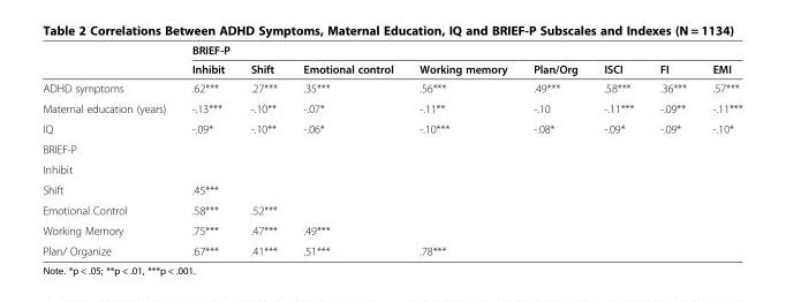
<table><thead><tr><td rowspan="2"></td><td colspan="8">BRIEF-P</td></tr><tr><td>Inhibit</td><td>Shift</td><td>Emotional control</td><td>Working memory</td><td>Plan/Org</td><td>ISCI</td><td>FI</td><td>EMI</td></tr></thead><tbody><tr><td>ADHD symptoms</td><td>.62***</td><td>.27***</td><td>.35***</td><td>.56***</td><td>.49***</td><td>.58***</td><td>.36***</td><td>.57***</td></tr><tr><td>Maternal education (years)</td><td>-.13***</td><td>-.10**</td><td>-.07*</td><td>-.11**</td><td>-.10</td><td>-.11***</td><td>-.09**</td><td>-.11***</td></tr><tr><td>IQ</td><td>-.09*</td><td>-.10**</td><td>-.06*</td><td>-.10***</td><td>-.08*</td><td>-.09*</td><td>-.09*</td><td>-.10*</td></tr><tr><td colspan="9">BRIEF-P</td></tr><tr><td colspan="9">Inhibit</td></tr><tr><td>Shift</td><td>.45***</td><td></td><td></td><td></td><td></td><td></td><td></td><td></td></tr><tr><td>Emotional Control</td><td>.58***</td><td>.52***</td><td></td><td></td><td></td><td></td><td></td><td></td></tr><tr><td>Working Memory</td><td>.75***</td><td>.47***</td><td>.49***</td><td></td><td></td><td></td><td></td><td></td></tr><tr><td>Plan/ Organize</td><td>.67***</td><td>.41***</td><td>.51***</td><td>.78***</td><td></td><td></td><td></td><td></td></tr></tbody></table>